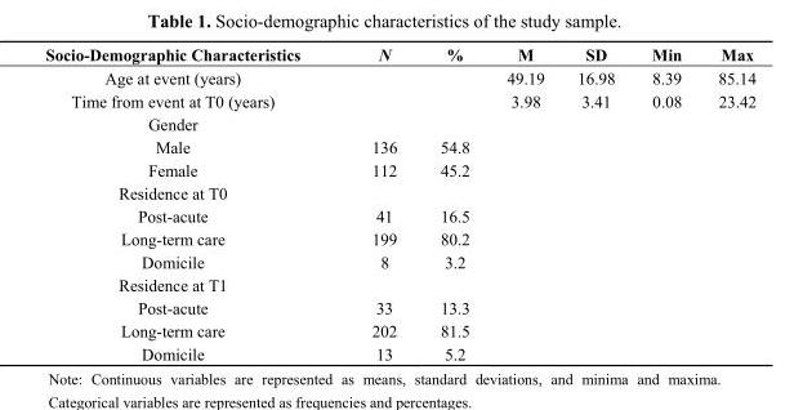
<table><thead><tr><td>Socio-Demographic Characteristics</td><td>N</td><td>%</td><td>M</td><td>SD</td><td>Min</td><td>Max</td></tr></thead><tbody><tr><td>Age at event (years)</td><td></td><td></td><td>49.19</td><td>16.98</td><td>8.39</td><td>85.14</td></tr><tr><td>Time from event at T0 (years)</td><td></td><td></td><td>3.98</td><td>3.41</td><td>0.08</td><td>23.42</td></tr><tr><td colspan="7">Gender</td></tr><tr><td>Male</td><td>136</td><td>54.8</td><td></td><td></td><td></td><td></td></tr><tr><td>Female</td><td>112</td><td>45.2</td><td></td><td></td><td></td><td></td></tr><tr><td colspan="7">Residence at T0</td></tr><tr><td>Post-acute</td><td>41</td><td>16.5</td><td></td><td></td><td></td><td></td></tr><tr><td>Long-term care</td><td>199</td><td>80.2</td><td></td><td></td><td></td><td></td></tr><tr><td>Domicile</td><td>8</td><td>3.2</td><td></td><td></td><td></td><td></td></tr><tr><td colspan="7">Residence at T1</td></tr><tr><td>Post-acute</td><td>33</td><td>13.3</td><td></td><td></td><td></td><td></td></tr><tr><td>Long-term care</td><td>202</td><td>81.5</td><td></td><td></td><td></td><td></td></tr><tr><td>Domicile</td><td>13</td><td>5.2</td><td></td><td></td><td></td><td></td></tr></tbody></table>